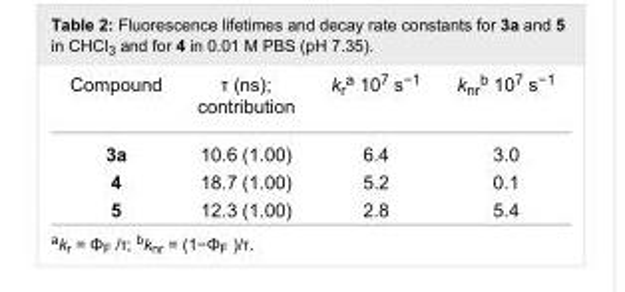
<table><tbody><tr><td>Compound</td><td>τ (ns); contribution</td><td>k<sub>r</sub><sup>a</sup> 10<sup>7</sup> s<sup>−1</sup></td><td>k<sub>nr</sub><sup>b</sup> 10<sup>7</sup> s<sup>−1</sup></td></tr><tr><td>3a</td><td>10.6 (1.00)</td><td>6.4</td><td>3.0</td></tr><tr><td>4</td><td>18.7 (1.00)</td><td>5.2</td><td>0.1</td></tr><tr><td>5</td><td>12.3 (1.00)</td><td>2.8</td><td>5.4</td></tr></tbody></table>